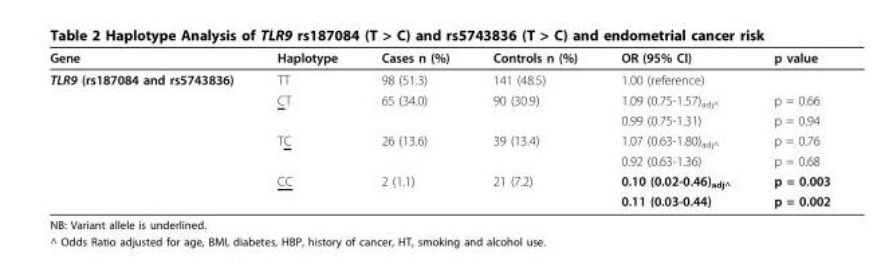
<table><thead><tr><td>Gene</td><td>Haplotype</td><td>Cases n (%)</td><td>Controls n (%)</td><td>OR (95% CI)</td><td>p value</td></tr></thead><tbody><tr><td rowspan="7">TLR9 (rs187084 and rs5743836)</td><td>TT</td><td>98 (51.3)</td><td>141 (48.5)</td><td>1.00 (reference)</td><td></td></tr><tr><td>CT</td><td>65 (34.0)</td><td>90 (30.9)</td><td>1.09 (0.75-1.57)<sub>adj^</sub></td><td>p = 0.66</td></tr><tr><td></td><td></td><td></td><td>0.99 (0.75-1.31)</td><td>p = 0.94</td></tr><tr><td>TC</td><td>26 (13.6)</td><td>39 (13.4)</td><td>1.07 (0.63-1.80)<sub>adj^</sub></td><td>p = 0.76</td></tr><tr><td></td><td></td><td></td><td>0.92 (0.63-1.36)</td><td>p = 0.68</td></tr><tr><td>CC</td><td>2 (1.1)</td><td>21 (7.2)</td><td>0.10 (0.02-0.46)<sub>adj^</sub></td><td>p = 0.003</td></tr><tr><td></td><td></td><td></td><td>0.11 (0.03-0.44)</td><td>p = 0.002</td></tr></tbody></table>